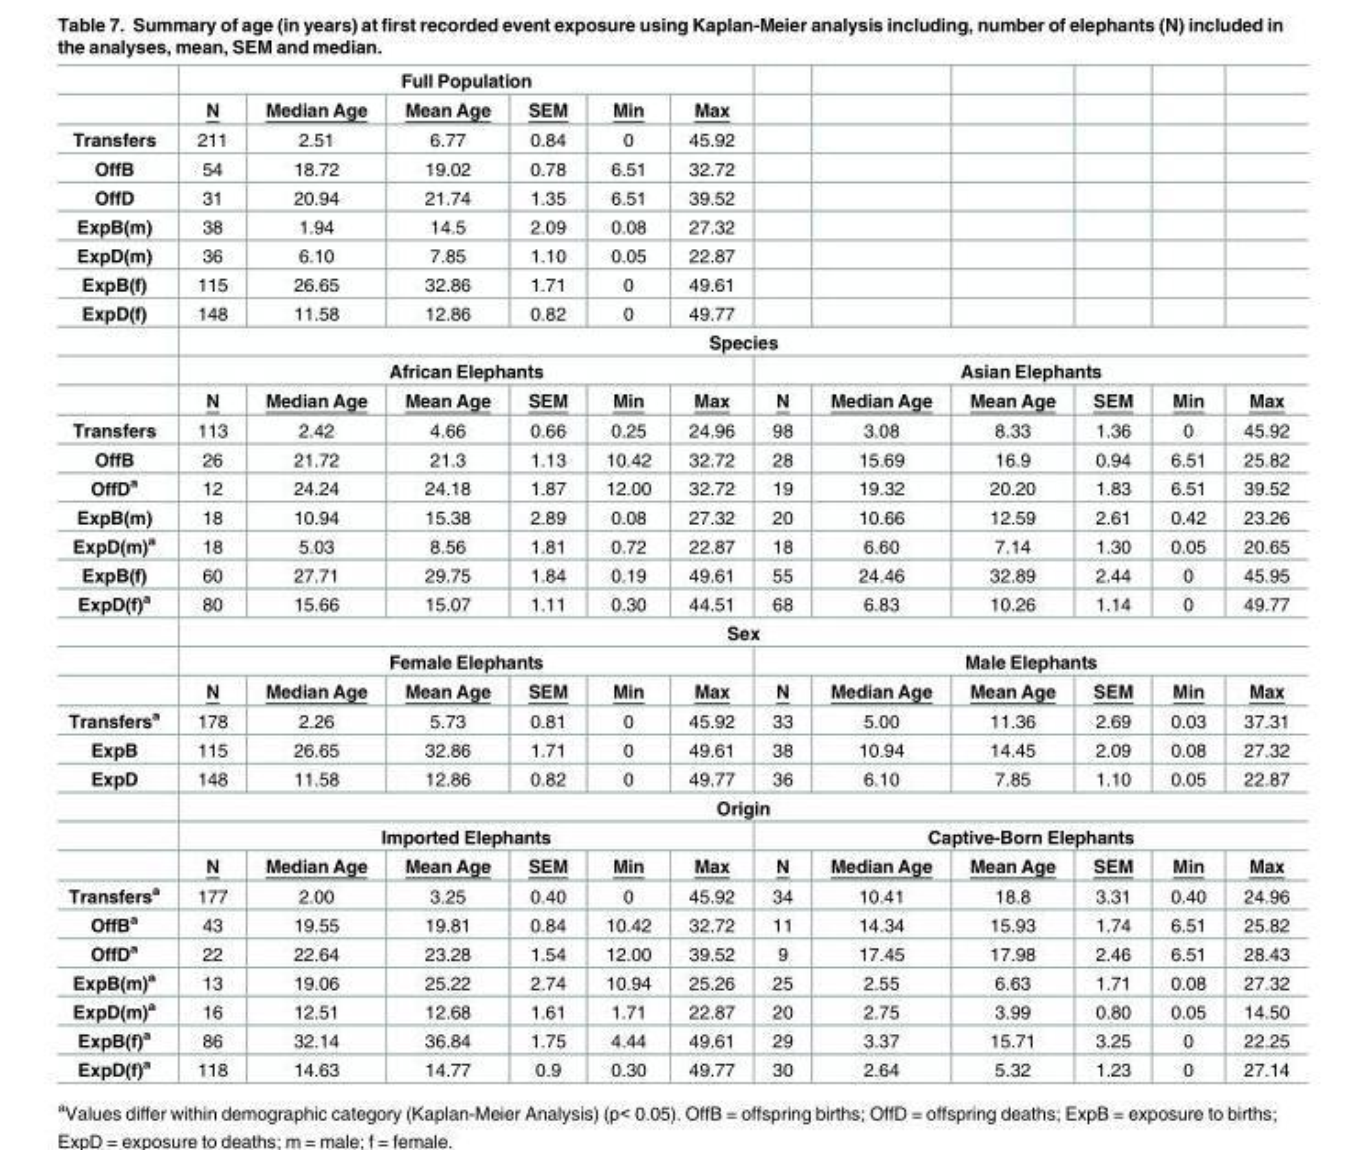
<table><thead><tr><td rowspan="2"></td><td colspan="6">Full Population</td><td rowspan="2"></td><td rowspan="2"></td><td rowspan="2"></td><td rowspan="2"></td><td rowspan="2"></td><td rowspan="2"></td></tr><tr><td>N</td><td>Median Age</td><td>Mean Age</td><td>SEM</td><td>Min</td><td>Max</td></tr></thead><tbody><tr><td>Transfers</td><td>211</td><td>2.51</td><td>6.77</td><td>0.84</td><td>0</td><td>45.92</td><td></td><td></td><td></td><td></td><td></td><td></td></tr><tr><td>OffB</td><td>54</td><td>18.72</td><td>19.02</td><td>0.78</td><td>6.51</td><td>32.72</td><td></td><td></td><td></td><td></td><td></td><td></td></tr><tr><td>OffD</td><td>31</td><td>20.94</td><td>21.74</td><td>1.35</td><td>6.51</td><td>39.52</td><td></td><td></td><td></td><td></td><td></td><td></td></tr><tr><td>ExpB(m)</td><td>38</td><td>1.94</td><td>14.5</td><td>2.09</td><td>0.08</td><td>27.32</td><td></td><td></td><td></td><td></td><td></td><td></td></tr><tr><td>ExpD(m)</td><td>36</td><td>6.10</td><td>7.85</td><td>1.10</td><td>0.05</td><td>22.87</td><td></td><td></td><td></td><td></td><td></td><td></td></tr><tr><td>ExpB(f)</td><td>115</td><td>26.65</td><td>32.86</td><td>1.71</td><td>0</td><td>49.61</td><td></td><td></td><td></td><td></td><td></td><td></td></tr><tr><td rowspan="4">ExpD(f)</td><td>148</td><td>11.58</td><td>12.86</td><td>0.82</td><td>0</td><td>49.77</td><td></td><td></td><td></td><td></td><td></td><td></td></tr><tr><td colspan="12">Species</td></tr><tr><td colspan="6">African Elephants</td><td colspan="6">Asian Elephants</td></tr><tr><td>N</td><td>Median Age</td><td>Mean Age</td><td>SEM</td><td>Min</td><td>Max</td><td>N</td><td>Median Age</td><td>Mean Age</td><td>SEM</td><td>Min</td><td>Max</td></tr><tr><td>Transfers</td><td>113</td><td>2.42</td><td>4.66</td><td>0.66</td><td>0.25</td><td>24.96</td><td>98</td><td>3.08</td><td>8.33</td><td>1.36</td><td>0</td><td>45.92</td></tr><tr><td>OffB</td><td>26</td><td>21.72</td><td>21.3</td><td>1.13</td><td>10.42</td><td>32.72</td><td>28</td><td>15.69</td><td>16.9</td><td>0.94</td><td>6.51</td><td>25.82</td></tr><tr><td>OffD<sup>a</sup></td><td>12</td><td>24.24</td><td>24.18</td><td>1.87</td><td>12.00</td><td>32.72</td><td>19</td><td>19.32</td><td>20.20</td><td>1.83</td><td>6.51</td><td>39.52</td></tr><tr><td>ExpB(m)</td><td>18</td><td>10.94</td><td>15.38</td><td>2.89</td><td>0.08</td><td>27.32</td><td>20</td><td>10.66</td><td>12.59</td><td>2.61</td><td>0.42</td><td>23.26</td></tr><tr><td>ExpD(m)<sup>a</sup></td><td>18</td><td>5.03</td><td>8.56</td><td>1.81</td><td>0.72</td><td>22.87</td><td>18</td><td>6.60</td><td>7.14</td><td>1.30</td><td>0.05</td><td>20.65</td></tr><tr><td>ExpB(f)</td><td>60</td><td>27.71</td><td>29.75</td><td>1.84</td><td>0.19</td><td>49.61</td><td>55</td><td>24.46</td><td>32.89</td><td>2.44</td><td>0</td><td>45.95</td></tr><tr><td rowspan="4">ExpD(f)<sup>a</sup></td><td>80</td><td>15.66</td><td>15.07</td><td>1.11</td><td>0.30</td><td>44.51</td><td>68</td><td>6.83</td><td>10.26</td><td>1.14</td><td>0</td><td>49.77</td></tr><tr><td colspan="12">Sex</td></tr><tr><td colspan="6">Female Elephants</td><td colspan="6">Male Elephants</td></tr><tr><td>N</td><td>Median Age</td><td>Mean Age</td><td>SEM</td><td>Min</td><td>Max</td><td>N</td><td>Median Age</td><td>Mean Age</td><td>SEM</td><td>Min</td><td>Max</td></tr><tr><td>Transfers<sup>a</sup></td><td>178</td><td>2.26</td><td>5.73</td><td>0.81</td><td>0</td><td>45.92</td><td>33</td><td>5.00</td><td>11.36</td><td>2.69</td><td>0.03</td><td>37.31</td></tr><tr><td>ExpB</td><td>115</td><td>26.65</td><td>32.86</td><td>1.71</td><td>0</td><td>49.61</td><td>38</td><td>10.94</td><td>14.45</td><td>2.09</td><td>0.08</td><td>27.32</td></tr><tr><td rowspan="4">ExpD</td><td>148</td><td>11.58</td><td>12.86</td><td>0.82</td><td>0</td><td>49.77</td><td>36</td><td>6.10</td><td>7.85</td><td>1.10</td><td>0.05</td><td>22.87</td></tr><tr><td colspan="12">Origin</td></tr><tr><td colspan="6">Imported Elephants</td><td colspan="6">Captive-Born Elephants</td></tr><tr><td>N</td><td>Median Age</td><td>Mean Age</td><td>SEM</td><td>Min</td><td>Max</td><td>N</td><td>Median Age</td><td>Mean Age</td><td>SEM</td><td>Min</td><td>Max</td></tr><tr><td>Transfers<sup>a</sup></td><td>177</td><td>2.00</td><td>3.25</td><td>0.40</td><td>0</td><td>45.92</td><td>34</td><td>10.41</td><td>18.8</td><td>3.31</td><td>0.40</td><td>24.96</td></tr><tr><td>OffB<sup>a</sup></td><td>43</td><td>19.55</td><td>19.81</td><td>0.84</td><td>10.42</td><td>32.72</td><td>11</td><td>14.34</td><td>15.93</td><td>1.74</td><td>6.51</td><td>25.82</td></tr><tr><td>OffD<sup>a</sup></td><td>22</td><td>22.64</td><td>23.28</td><td>1.54</td><td>12.00</td><td>39.52</td><td>9</td><td>17.45</td><td>17.98</td><td>2.46</td><td>6.51</td><td>28.43</td></tr><tr><td>ExpB(m)<sup>a</sup></td><td>13</td><td>19.06</td><td>25.22</td><td>2.74</td><td>10.94</td><td>25.26</td><td>25</td><td>2.55</td><td>6.63</td><td>1.71</td><td>0.08</td><td>27.32</td></tr><tr><td>ExpD(m)<sup>a</sup></td><td>16</td><td>12.51</td><td>12.68</td><td>1.61</td><td>1.71</td><td>22.87</td><td>20</td><td>2.75</td><td>3.99</td><td>0.80</td><td>0.05</td><td>14.50</td></tr><tr><td>ExpB(f)<sup>a</sup></td><td>86</td><td>32.14</td><td>36.84</td><td>1.75</td><td>4.44</td><td>49.61</td><td>29</td><td>3.37</td><td>15.71</td><td>3.25</td><td>0</td><td>22.25</td></tr><tr><td>ExpD(f)<sup>a</sup></td><td>118</td><td>14.63</td><td>14.77</td><td>0.9</td><td>0.30</td><td>49.77</td><td>30</td><td>2.64</td><td>5.32</td><td>1.23</td><td>0</td><td>27.14</td></tr></tbody></table>